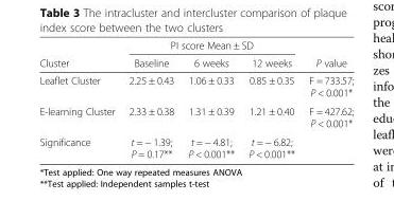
<table><thead><tr><td rowspan="2">Cluster</td><td colspan="3">PI score Mean ± SD</td><td rowspan="2">P value</td></tr><tr><td>Baseline</td><td>6 weeks</td><td>12 weeks</td></tr></thead><tbody><tr><td>Leaflet Cluster</td><td>2.25 ± 0.43</td><td>1.06 ± 0.33</td><td>0.85 ± 0.35</td><td>F = 733.57; P &lt; 0.001*</td></tr><tr><td>E-learning Cluster</td><td>2.33 ± 0.38</td><td>1.31 ± 0.39</td><td>1.21 ± 0.40</td><td>F = 427.62; P &lt; 0.001*</td></tr><tr><td>Significance</td><td>t = − 1.39; P = 0.17**</td><td>t = − 4.81; P &lt; 0.001**</td><td>t = − 6.82; P &lt; 0.001**</td><td></td></tr></tbody></table>